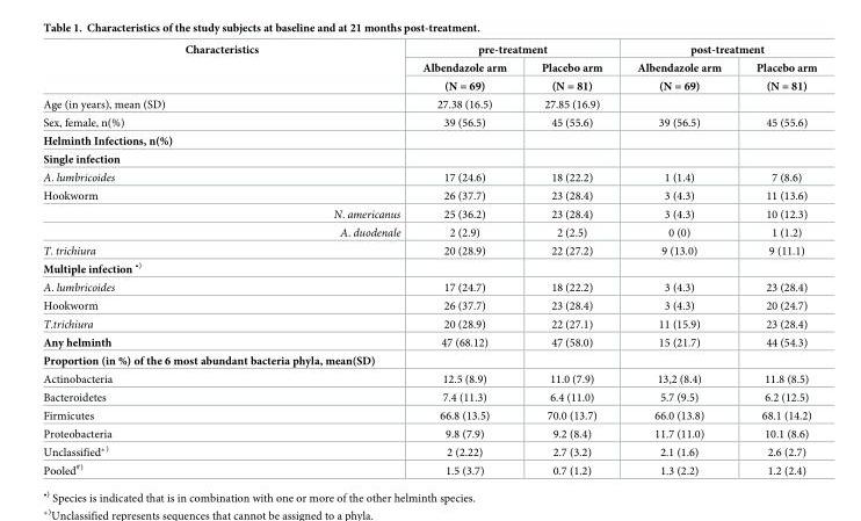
<table><thead><tr><td rowspan="3">Characteristics</td><td colspan="2">pre-treatment</td><td colspan="2">post-treatment</td></tr><tr><td rowspan="2">Albendazole arm (N = 69)</td><td rowspan="2">Placebo arm (N = 81)</td><td rowspan="2">Albendazole arm (N = 69)</td><td rowspan="2">Placebo arm (N = 81)</td></tr><tr></tr></thead><tbody><tr><td>Age (in years), mean (SD)</td><td>27.38 (16.5)</td><td>27.85 (16.9)</td><td></td><td></td></tr><tr><td>Sex, female, n(%)</td><td>39 (56.5)</td><td>45 (55.6)</td><td>39 (56.5)</td><td>45 (55.6)</td></tr><tr><td colspan="5">Helminth Infections, n(%)</td></tr><tr><td colspan="5">Single infection</td></tr><tr><td>A. lumbricoides</td><td>17 (24.6)</td><td>18 (22.2)</td><td>1 (1.4)</td><td>7 (8.6)</td></tr><tr><td>Hookworm</td><td>26 (37.7)</td><td>23 (28.4)</td><td>3 (4.3)</td><td>11 (13.6)</td></tr><tr><td>N. americanus</td><td>25 (36.2)</td><td>23 (28.4)</td><td>3 (4.3)</td><td>10 (12.3)</td></tr><tr><td>A. duodenale</td><td>2 (2.9)</td><td>2 (2.5)</td><td>0 (0)</td><td>1 (1.2)</td></tr><tr><td>T. trichiura</td><td>20 (28.9)</td><td>22 (27.2)</td><td>9 (13.0)</td><td>9 (11.1)</td></tr><tr><td colspan="5">Multiple infection <sup>•)</sup></td></tr><tr><td>A. lumbricoides</td><td>17 (24.7)</td><td>18 (22.2)</td><td>3 (4.3)</td><td>23 (28.4)</td></tr><tr><td>Hookworm</td><td>26 (37.7)</td><td>23 (28.4)</td><td>3 (4.3)</td><td>20 (24.7)</td></tr><tr><td>T.trichiura</td><td>20 (28.9)</td><td>22 (27.1)</td><td>11 (15.9)</td><td>23 (28.4)</td></tr><tr><td>Any helminth</td><td>47 (68.12)</td><td>47 (58.0)</td><td>15 (21.7)</td><td>44 (54.3)</td></tr><tr><td colspan="5">Proportion (in %) of the 6 most abundant bacteria phyla, mean(SD)</td></tr><tr><td>Actinobacteria</td><td>12.5 (8.9)</td><td>11.0 (7.9)</td><td>13,2 (8.4)</td><td>11.8 (8.5)</td></tr><tr><td>Bacteroidetes</td><td>7.4 (11.3)</td><td>6.4 (11.0)</td><td>5.7 (9.5)</td><td>6.2 (12.5)</td></tr><tr><td>Firmicutes</td><td>66.8 (13.5)</td><td>70.0 (13.7)</td><td>66.0 (13.8)</td><td>68.1 (14.2)</td></tr><tr><td>Proteobacteria</td><td>9.8 (7.9)</td><td>9.2 (8.4)</td><td>11.7 (11.0)</td><td>10.1 (8.6)</td></tr><tr><td>Unclassified*<sup>)</sup></td><td>2 (2.22)</td><td>2.7 (3.2)</td><td>2.1 (1.6)</td><td>2.6 (2.7)</td></tr><tr><td>Pooled<sup>#)</sup></td><td>1.5 (3.7)</td><td>0.7 (1.2)</td><td>1.3 (2.2)</td><td>1.2 (2.4)</td></tr></tbody></table>